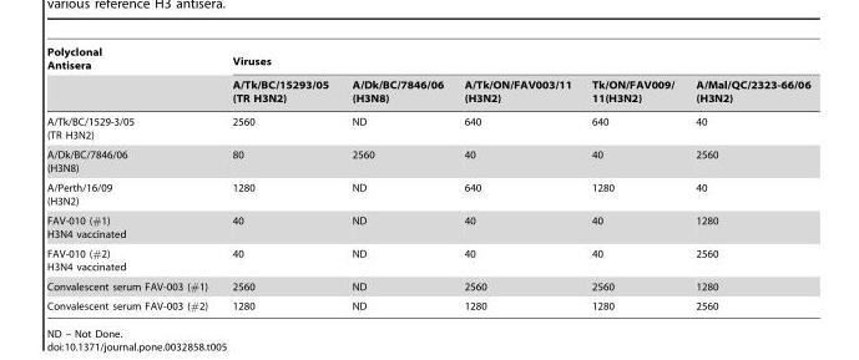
<table><thead><tr><td rowspan="2">Polyclonal Antisera</td><td colspan="5">Viruses</td></tr><tr><td>A/Tk/BC/15293/05 (TR H3N2)</td><td>A/Dk/BC/7846/06 (H3N8)</td><td>A/Tk/ON/FAV003/11 (H3N2)</td><td>Tk/ON/FAV009/ 11(H3N2)</td><td>A/Mal/QC/2323-66/06 (H3N2)</td></tr></thead><tbody><tr><td>A/Tk/BC/1529-3/05 (TR H3N2)</td><td>2560</td><td>ND</td><td>640</td><td>640</td><td>40</td></tr><tr><td>A/Dk/BC/7846/06 (H3N8)</td><td>80</td><td>2560</td><td>40</td><td>40</td><td>2560</td></tr><tr><td>A/Perth/16/09 (H3N2)</td><td>1280</td><td>ND</td><td>640</td><td>1280</td><td>40</td></tr><tr><td>FAV-010 (#1) H3N4 vaccinated</td><td>40</td><td>ND</td><td>40</td><td>40</td><td>1280</td></tr><tr><td>FAV-010 (#2) H3N4 vaccinated</td><td>40</td><td>ND</td><td>40</td><td>40</td><td>2560</td></tr><tr><td>Convalescent serum FAV-003 (#1)</td><td>2560</td><td>ND</td><td>2560</td><td>2560</td><td>1280</td></tr><tr><td>Convalescent serum FAV-003 (#2)</td><td>1280</td><td>ND</td><td>1280</td><td>1280</td><td>2560</td></tr></tbody></table>